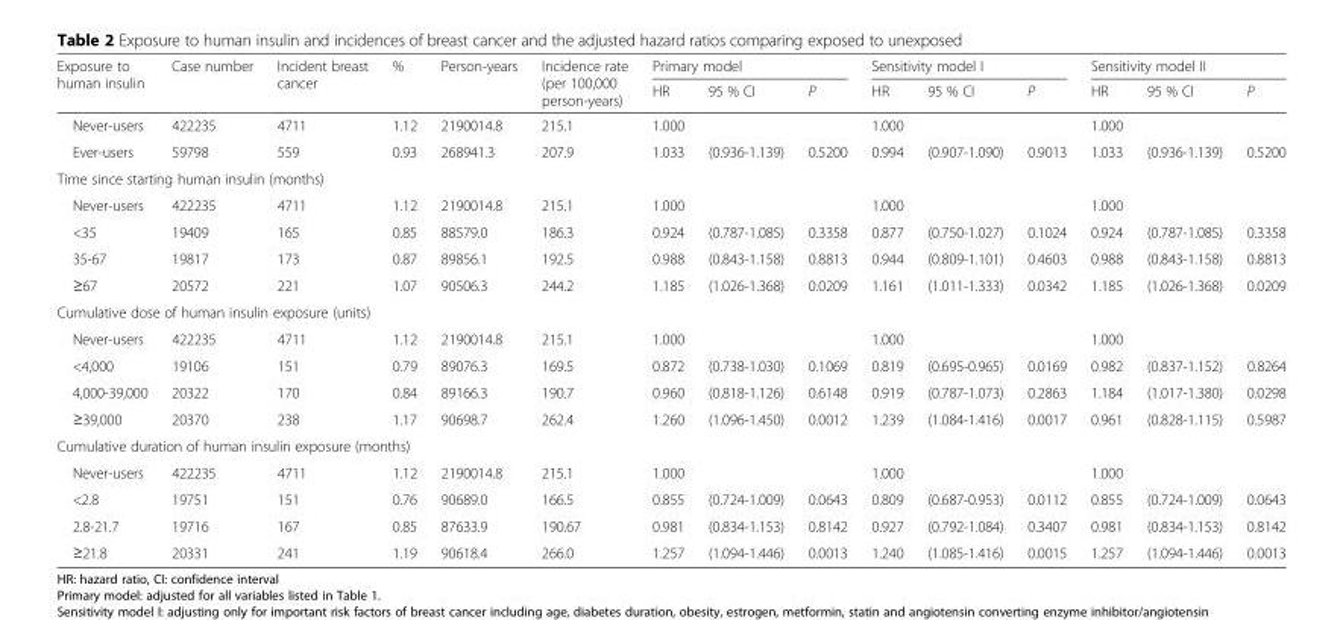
<table><thead><tr><td rowspan="2">Exposure to human insulin</td><td rowspan="2">Case number</td><td rowspan="2">Incident breast cancer</td><td rowspan="2">%</td><td rowspan="2">Person-years</td><td rowspan="2">Incidence rate (per 100,000 person-years)</td><td colspan="3">Primary model</td><td colspan="3">Sensitivity model I</td><td colspan="3">Sensitivity model II</td></tr><tr><td>HR</td><td>95 % CI</td><td>P</td><td>HR</td><td>95 % CI</td><td>P</td><td>HR</td><td>95 % CI</td><td>P</td></tr></thead><tbody><tr><td>Never-users</td><td>422235</td><td>4711</td><td>1.12</td><td>2190014.8</td><td>215.1</td><td>1.000</td><td></td><td></td><td>1.000</td><td></td><td></td><td>1.000</td><td></td><td></td></tr><tr><td>Ever-users</td><td>59798</td><td>559</td><td>0.93</td><td>268941.3</td><td>207.9</td><td>1.033</td><td>(0.936-1.139)</td><td>0.5200</td><td>0.994</td><td>(0.907-1.090)</td><td>0.9013</td><td>1.033</td><td>(0.936-1.139)</td><td>0.5200</td></tr><tr><td colspan="15">Time since starting human insulin (months)</td></tr><tr><td>Never-users</td><td>422235</td><td>4711</td><td>1.12</td><td>2190014.8</td><td>215.1</td><td>1.000</td><td></td><td></td><td>1.000</td><td></td><td></td><td>1.000</td><td></td><td></td></tr><tr><td>&lt;35</td><td>19409</td><td>165</td><td>0.85</td><td>88579.0</td><td>186.3</td><td>0.924</td><td>(0.787-1.085)</td><td>0.3358</td><td>0.877</td><td>(0.750-1.027)</td><td>0.1024</td><td>0.924</td><td>(0.787-1.085)</td><td>0.3358</td></tr><tr><td>35-67</td><td>19817</td><td>173</td><td>0.87</td><td>89856.1</td><td>192.5</td><td>0.988</td><td>(0.843-1.158)</td><td>0.8813</td><td>0.944</td><td>(0.809-1.101)</td><td>0.4603</td><td>0.988</td><td>(0.843-1.158)</td><td>0.8813</td></tr><tr><td>≥67</td><td>20572</td><td>221</td><td>1.07</td><td>90506.3</td><td>244.2</td><td>1.185</td><td>(1.026-1.368)</td><td>0.0209</td><td>1.161</td><td>(1.011-1.333)</td><td>0.0342</td><td>1.185</td><td>(1.026-1.368)</td><td>0.0209</td></tr><tr><td colspan="15">Cumulative dose of human insulin exposure (units)</td></tr><tr><td>Never-users</td><td>422235</td><td>4711</td><td>1.12</td><td>2190014.8</td><td>215.1</td><td>1.000</td><td></td><td></td><td>1.000</td><td></td><td></td><td>1.000</td><td></td><td></td></tr><tr><td>&lt;4,000</td><td>19106</td><td>151</td><td>0.79</td><td>89076.3</td><td>169.5</td><td>0.872</td><td>(0.738-1.030)</td><td>0.1069</td><td>0.819</td><td>(0.695-0.965)</td><td>0.0169</td><td>0.982</td><td>(0.837-1.152)</td><td>0.8264</td></tr><tr><td>4,000-39,000</td><td>20322</td><td>170</td><td>0.84</td><td>89166.3</td><td>190.7</td><td>0.960</td><td>(0.818-1.126)</td><td>0.6148</td><td>0.919</td><td>(0.787-1.073)</td><td>0.2863</td><td>1.184</td><td>(1.017-1.380)</td><td>0.0298</td></tr><tr><td>≥39,000</td><td>20370</td><td>238</td><td>1.17</td><td>90698.7</td><td>262.4</td><td>1.260</td><td>(1.096-1.450)</td><td>0.0012</td><td>1.239</td><td>(1.084-1.416)</td><td>0.0017</td><td>0.961</td><td>(0.828-1.115)</td><td>0.5987</td></tr><tr><td colspan="15">Cumulative duration of human insulin exposure (months)</td></tr><tr><td>Never-users</td><td>422235</td><td>4711</td><td>1.12</td><td>2190014.8</td><td>215.1</td><td>1.000</td><td></td><td></td><td>1.000</td><td></td><td></td><td>1.000</td><td></td><td></td></tr><tr><td>&lt;2.8</td><td>19751</td><td>151</td><td>0.76</td><td>90689.0</td><td>166.5</td><td>0.855</td><td>(0.724-1.009)</td><td>0.0643</td><td>0.809</td><td>(0.687-0.953)</td><td>0.0112</td><td>0.855</td><td>(0.724-1.009)</td><td>0.0643</td></tr><tr><td>2.8-21.7</td><td>19716</td><td>167</td><td>0.85</td><td>87633.9</td><td>190.67</td><td>0.981</td><td>(0.834-1.153)</td><td>0.8142</td><td>0.927</td><td>(0.792-1.084)</td><td>0.3407</td><td>0.981</td><td>(0.834-1.153)</td><td>0.8142</td></tr><tr><td>≥21.8</td><td>20331</td><td>241</td><td>1.19</td><td>90618.4</td><td>266.0</td><td>1.257</td><td>(1.094-1.446)</td><td>0.0013</td><td>1.240</td><td>(1.085-1.416)</td><td>0.0015</td><td>1.257</td><td>(1.094-1.446)</td><td>0.0013</td></tr></tbody></table>